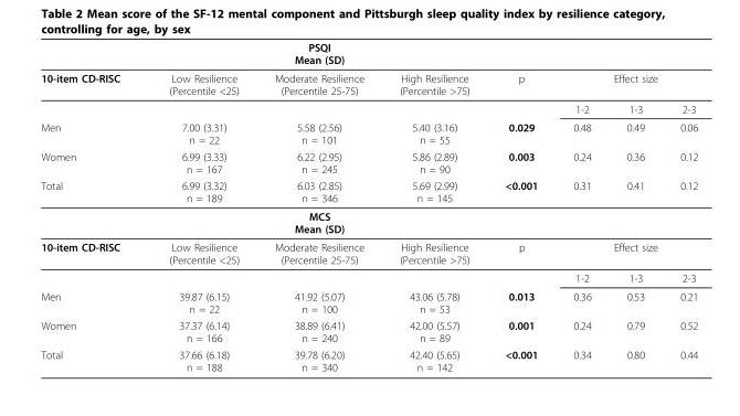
<table><thead><tr><td rowspan="2">10-item CD-RISC</td><td colspan="3">PSQI Mean (SD)</td><td rowspan="2">p</td><td></td><td></td><td></td></tr><tr><td>Low Resilience (Percentile &lt;25)</td><td>Moderate Resilience (Percentile 25-75)</td><td>High Resilience (Percentile &gt;75)</td><td colspan="3">Effect size</td></tr></thead><tbody><tr><td></td><td></td><td></td><td></td><td></td><td>1-2</td><td>1-3</td><td>2-3</td></tr><tr><td>Men</td><td>7.00 (3.31) n = 22</td><td>5.58 (2.56) n = 101</td><td>5.40 (3.16) n = 55</td><td>0.029</td><td>0.48</td><td>0.49</td><td>0.06</td></tr><tr><td>Women</td><td>6.99 (3.33) n = 167</td><td>6.22 (2.95) n = 245</td><td>5.86 (2.89) n = 90</td><td>0.003</td><td>0.24</td><td>0.36</td><td>0.12</td></tr><tr><td rowspan="2">Total</td><td>6.99 (3.32) n = 189</td><td>6.03 (2.85) n = 346</td><td>5.69 (2.99) n = 145</td><td>&lt;0.001</td><td>0.31</td><td>0.41</td><td>0.12</td></tr><tr><td colspan="3">MCS Mean (SD)</td><td></td><td></td><td></td><td></td></tr><tr><td rowspan="2">10-item CD-RISC</td><td>Low Resilience (Percentile &lt;25)</td><td>Moderate Resilience (Percentile 25-75)</td><td>High Resilience (Percentile &gt;75)</td><td>p</td><td colspan="3">Effect size</td></tr><tr><td></td><td></td><td></td><td></td><td>1-2</td><td>1-3</td><td>2-3</td></tr><tr><td>Men</td><td>39.87 (6.15) n = 22</td><td>41.92 (5.07) n = 100</td><td>43.06 (5.78) n = 53</td><td>0.013</td><td>0.36</td><td>0.53</td><td>0.21</td></tr><tr><td>Women</td><td>37.37 (6.14) n = 166</td><td>38.89 (6.41) n = 240</td><td>42.00 (5.57) n = 89</td><td>0.001</td><td>0.24</td><td>0.79</td><td>0.52</td></tr><tr><td>Total</td><td>37.66 (6.18) n = 188</td><td>39.78 (6.20) n = 340</td><td>42.40 (5.65) n = 142</td><td>&lt;0.001</td><td>0.34</td><td>0.80</td><td>0.44</td></tr></tbody></table>